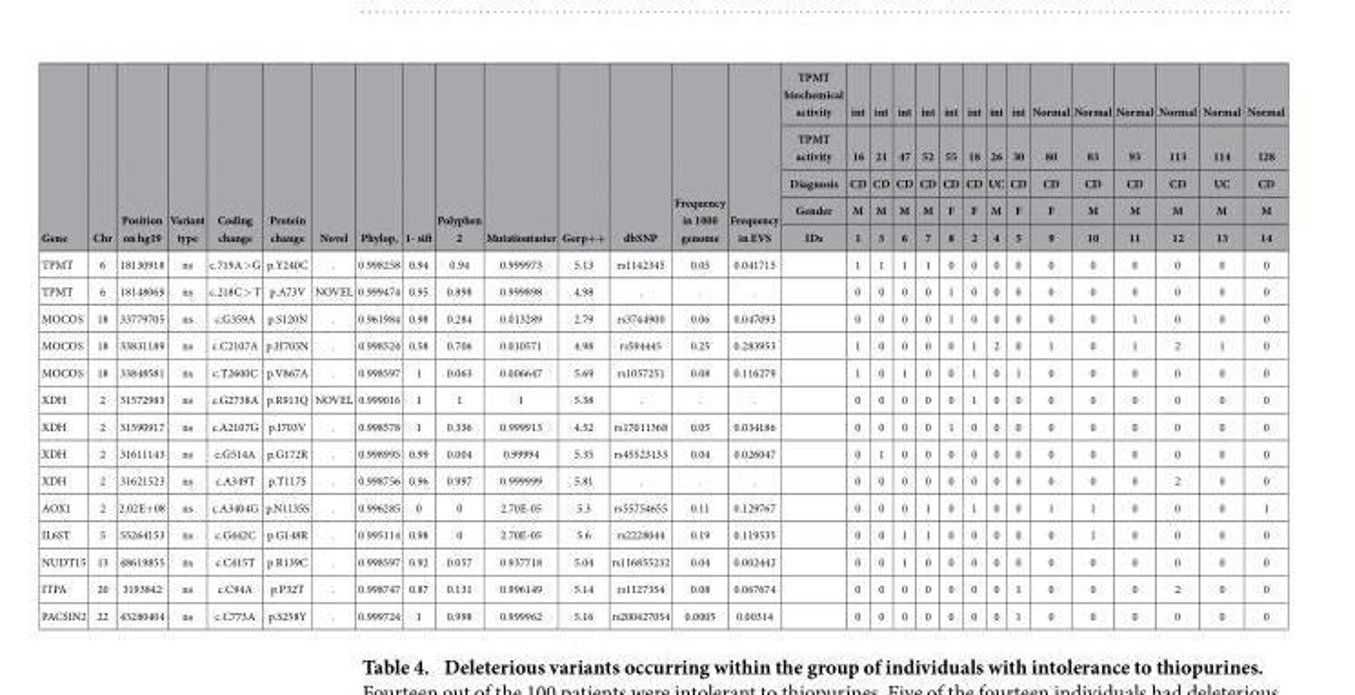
<table><thead><tr><td rowspan="5">Gene</td><td rowspan="5">Chr</td><td rowspan="5">Position on hg19</td><td rowspan="5">Variant type</td><td rowspan="5">Coding change</td><td rowspan="5">Protein change</td><td rowspan="5">Novel</td><td rowspan="5">Phylop,</td><td rowspan="5">1- sift</td><td rowspan="5">Polyphen 2</td><td rowspan="5">Mutationtaster</td><td rowspan="5">Gerp++</td><td rowspan="5">dbSNP</td><td rowspan="5">Frequency in 1000 genome</td><td rowspan="5">Frequency in EVS</td><td rowspan="5">TPMT biochemical activity TPMT activity Diagnosis Gender IDs</td><td rowspan="5">int 16 CD M 1</td><td rowspan="5">int 21 CD M 3</td><td rowspan="5">int 47 CD M 6</td><td rowspan="5">int 52 CD M 7</td><td rowspan="5">int 55 CD F 8</td><td rowspan="5">int 18 CD F 2</td><td rowspan="5">int 26 UC M 4</td><td rowspan="5">int 30 CD F 5</td><td rowspan="5">Normal 80 CD F 9</td><td rowspan="5">Normal 83 CD M 10</td><td rowspan="5">Normal 93 CD M 11</td><td rowspan="5">Normal 113 CD M 12</td><td rowspan="5">Normal 114 UC M 13</td><td rowspan="5">Normal 128 CD M 14</td></tr><tr></tr><tr></tr><tr></tr><tr></tr></thead><tbody><tr><td>TPMT</td><td>6</td><td>18130918</td><td>ns</td><td>c.719A &gt; G</td><td>p.Y240C</td><td>.</td><td>0.998258</td><td>0.94</td><td>0.94</td><td>0.999973</td><td>5.13</td><td>rs1142345</td><td>0.05</td><td>0.041715</td><td></td><td>1</td><td>1</td><td>1</td><td>1</td><td>0</td><td>0</td><td>0</td><td>0</td><td>0</td><td>0</td><td>0</td><td>0</td><td>0</td><td>0</td></tr><tr><td>TPMT</td><td>6</td><td>18148069</td><td>ns</td><td>c.218C &gt; T</td><td>p.A73V</td><td>NOVEL</td><td>0.999474</td><td>0.95</td><td>0.898</td><td>0.999898</td><td>4.98</td><td>.</td><td>.</td><td>.</td><td></td><td>0</td><td>0</td><td>0</td><td>0</td><td>1</td><td>0</td><td>0</td><td>0</td><td>0</td><td>0</td><td>0</td><td>0</td><td>0</td><td>0</td></tr><tr><td>MOCOS</td><td>18</td><td>33779705</td><td>ns</td><td>c.G359A</td><td>p.S120N</td><td>.</td><td>0.961984</td><td>0.98</td><td>0.284</td><td>0.013289</td><td>2.79</td><td>rs3744900</td><td>0.06</td><td>0.047093</td><td></td><td>0</td><td>0</td><td>0</td><td>0</td><td>1</td><td>0</td><td>0</td><td>0</td><td>0</td><td>0</td><td>1</td><td>0</td><td>0</td><td>0</td></tr><tr><td>MOCOS</td><td>18</td><td>33831189</td><td>ns</td><td>c.C2107A</td><td>p.H703N</td><td>.</td><td>0.998524</td><td>0.58</td><td>0.706</td><td>0.010571</td><td>4.98</td><td>rs594445</td><td>0.25</td><td>0.283953</td><td></td><td>1</td><td>0</td><td>0</td><td>0</td><td>0</td><td>1</td><td>2</td><td>0</td><td>1</td><td>0</td><td>1</td><td>2</td><td>1</td><td>0</td></tr><tr><td>MOCOS</td><td>18</td><td>33848581</td><td>ns</td><td>c.T2600C</td><td>p.V867A</td><td>.</td><td>0.998597</td><td>1</td><td>0.063</td><td>0.006647</td><td>5.69</td><td>rs1057251</td><td>0.08</td><td>0.116279</td><td></td><td>1</td><td>0</td><td>1</td><td>0</td><td>0</td><td>1</td><td>0</td><td>1</td><td>0</td><td>0</td><td>0</td><td>0</td><td>0</td><td>0</td></tr><tr><td>XDH</td><td>2</td><td>31572983</td><td>ns</td><td>c.G2738A</td><td>p.R913Q</td><td>NOVEL</td><td>0.999016</td><td>1</td><td>1</td><td>1</td><td>5.38</td><td>.</td><td>.</td><td>.</td><td></td><td>0</td><td>0</td><td>0</td><td>0</td><td>0</td><td>1</td><td>0</td><td>0</td><td>0</td><td>0</td><td>0</td><td>0</td><td>0</td><td>0</td></tr><tr><td>XDH</td><td>2</td><td>31590917</td><td>ns</td><td>c.A2107G</td><td>p.I703V</td><td>.</td><td>0.998578</td><td>1</td><td>0.336</td><td>0.999913</td><td>4.52</td><td>rs17011368</td><td>0.05</td><td>0.034186</td><td></td><td>0</td><td>0</td><td>0</td><td>0</td><td>1</td><td>0</td><td>0</td><td>0</td><td>0</td><td>0</td><td>0</td><td>0</td><td>0</td><td>0</td></tr><tr><td>XDH</td><td>2</td><td>31611143</td><td>ns</td><td>c.G514A</td><td>p.G172R</td><td>.</td><td>0.998995</td><td>0.99</td><td>0.004</td><td>0.99994</td><td>5.35</td><td>rs45523133</td><td>0.04</td><td>0.026047</td><td></td><td>0</td><td>1</td><td>0</td><td>0</td><td>0</td><td>0</td><td>0</td><td>0</td><td>0</td><td>0</td><td>0</td><td>0</td><td>0</td><td>0</td></tr><tr><td>XDH</td><td>2</td><td>31621523</td><td>ns</td><td>c.A349T</td><td>p.T117S</td><td>.</td><td>0.998756</td><td>0.96</td><td>0.997</td><td>0.999999</td><td>5.81</td><td>.</td><td>.</td><td>.</td><td></td><td>0</td><td>0</td><td>0</td><td>0</td><td>0</td><td>0</td><td>0</td><td>0</td><td>0</td><td>0</td><td>0</td><td>2</td><td>0</td><td>0</td></tr><tr><td>AOX1</td><td>2</td><td>2.02E+08</td><td>ns</td><td>c.A3404G</td><td>p.N1135S</td><td>.</td><td>0.996285</td><td>0</td><td>0</td><td>2.70E-05</td><td>5.3</td><td>rs55754655</td><td>0.11</td><td>0.129767</td><td></td><td>0</td><td>0</td><td>0</td><td>1</td><td>0</td><td>1</td><td>0</td><td>0</td><td>1</td><td>1</td><td>0</td><td>0</td><td>0</td><td>1</td></tr><tr><td>IL6ST</td><td>5</td><td>55264153</td><td>ns</td><td>c.G442C</td><td>p.G148R</td><td>.</td><td>0.995114</td><td>0.98</td><td>0</td><td>2.70E-05</td><td>5.6</td><td>rs2228044</td><td>0.19</td><td>0.119535</td><td></td><td>0</td><td>0</td><td>1</td><td>1</td><td>0</td><td>0</td><td>0</td><td>0</td><td>0</td><td>1</td><td>0</td><td>0</td><td>0</td><td>0</td></tr><tr><td>NUDT15</td><td>13</td><td>48619855</td><td>ns</td><td>c.C415T</td><td>p.R139C</td><td>.</td><td>0.998597</td><td>0.92</td><td>0.057</td><td>0.937718</td><td>5.04</td><td>rs116855232</td><td>0.04</td><td>0.002442</td><td></td><td>0</td><td>0</td><td>1</td><td>0</td><td>0</td><td>0</td><td>0</td><td>0</td><td>0</td><td>0</td><td>0</td><td>0</td><td>0</td><td>0</td></tr><tr><td>ITPA</td><td>20</td><td>3193842</td><td>ns</td><td>c.C94A</td><td>p.P32T</td><td>.</td><td>0.998747</td><td>0.87</td><td>0.131</td><td>0.996149</td><td>5.14</td><td>rs1127354</td><td>0.08</td><td>0.067674</td><td></td><td>0</td><td>0</td><td>0</td><td>0</td><td>0</td><td>0</td><td>0</td><td>1</td><td>0</td><td>0</td><td>0</td><td>2</td><td>0</td><td>0</td></tr><tr><td>PACSIN2</td><td>22</td><td>43280404</td><td>ns</td><td>c.C773A</td><td>p.S258Y</td><td>.</td><td>0.999724</td><td>1</td><td>0.998</td><td>0.999962</td><td>5.16</td><td>rs200427054</td><td>0.0005</td><td>0.00314</td><td></td><td>0</td><td>0</td><td>0</td><td>0</td><td>0</td><td>0</td><td>0</td><td>1</td><td>0</td><td>0</td><td>0</td><td>0</td><td>0</td><td>0</td></tr></tbody></table>